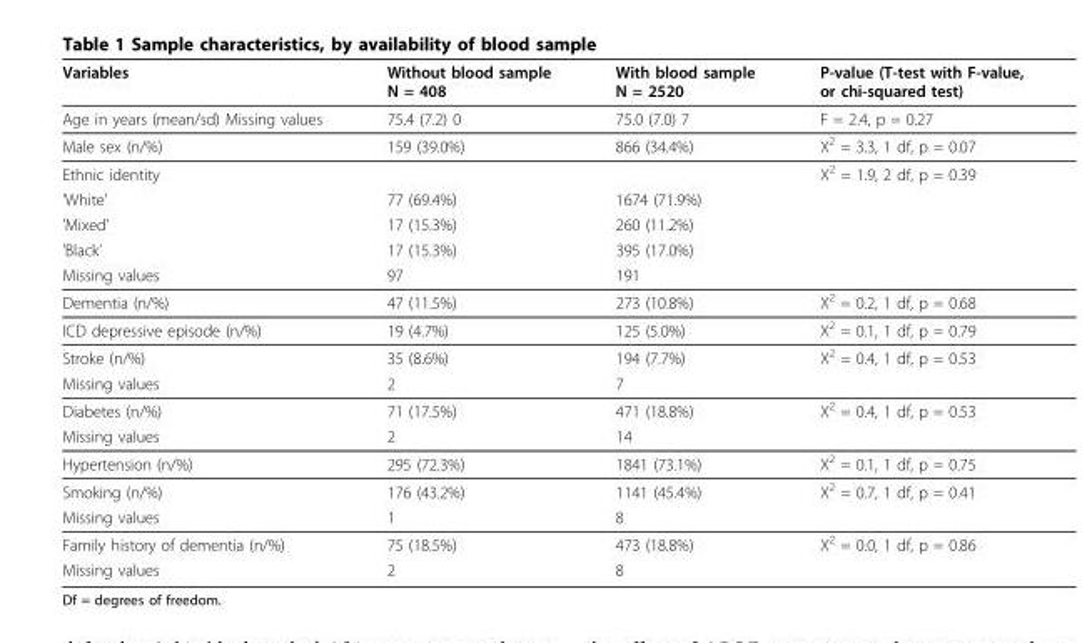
<table><thead><tr><td>Variables</td><td>Without blood sample N = 408</td><td>With blood sample N = 2520</td><td>P-value (T-test with F-value, or chi-squared test)</td></tr></thead><tbody><tr><td>Age in years (mean/sd) Missing values</td><td>75.4 (7.2) 0</td><td>75.0 (7.0) 7</td><td>F = 2.4, p = 0.27</td></tr><tr><td>Male sex (n/%)</td><td>159 (39.0%)</td><td>866 (34.4%)</td><td>X<sup>2</sup> = 3.3, 1 df, p = 0.07</td></tr><tr><td>Ethnic identity</td><td></td><td></td><td>X<sup>2</sup> = 1.9, 2 df, p = 0.39</td></tr><tr><td>’White’</td><td>77 (69.4%)</td><td>1674 (71.9%)</td><td></td></tr><tr><td>’Mixed’</td><td>17 (15.3%)</td><td>260 (11.2%)</td><td></td></tr><tr><td>’Black’</td><td>17 (15.3%)</td><td>395 (17.0%)</td><td></td></tr><tr><td>Missing values</td><td>97</td><td>191</td><td></td></tr><tr><td>Dementia (n/%)</td><td>47 (11.5%)</td><td>273 (10.8%)</td><td>X<sup>2</sup> = 0.2, 1 df, p = 0.68</td></tr><tr><td>ICD depressive episode (n/%)</td><td>19 (4.7%)</td><td>125 (5.0%)</td><td>X<sup>2</sup> = 0.1, 1 df, p = 0.79</td></tr><tr><td>Stroke (n/%)</td><td>35 (8.6%)</td><td>194 (7.7%)</td><td>X<sup>2</sup> = 0.4, 1 df, p = 0.53</td></tr><tr><td>Missing values</td><td>2</td><td>7</td><td></td></tr><tr><td>Diabetes (n/%)</td><td>71 (17.5%)</td><td>471 (18.8%)</td><td>X<sup>2</sup> = 0.4, 1 df, p = 0.53</td></tr><tr><td>Missing values</td><td>2</td><td>14</td><td></td></tr><tr><td>Hypertension (n/%)</td><td>295 (72.3%)</td><td>1841 (73.1%)</td><td>X<sup>2</sup> = 0.1, 1 df, p = 0.75</td></tr><tr><td>Smoking (n/%)</td><td>176 (43.2%)</td><td>1141 (45.4%)</td><td>X<sup>2</sup> = 0.7, 1 df, p = 0.41</td></tr><tr><td>Missing values</td><td>1</td><td>8</td><td></td></tr><tr><td>Family history of dementia (n/%)</td><td>75 (18.5%)</td><td>473 (18.8%)</td><td>X<sup>2</sup> = 0.0, 1 df, p = 0.86</td></tr><tr><td>Missing values</td><td>2</td><td>8</td><td></td></tr></tbody></table>